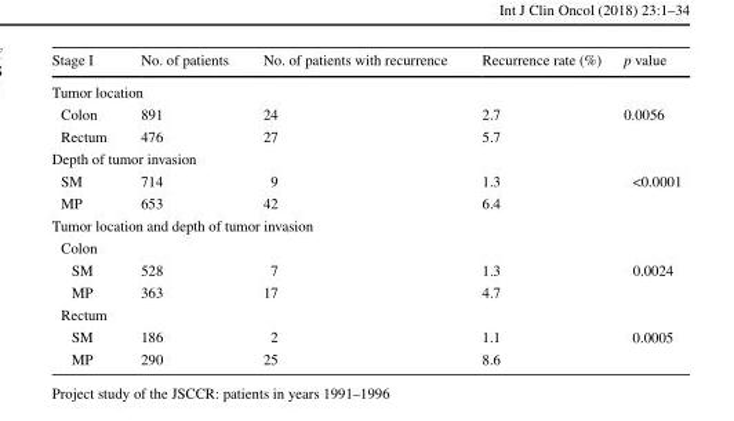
<table><thead><tr><td>Stage I</td><td>No. of patients</td><td>No. of patients with recurrence</td><td>Recurrence rate (%)</td><td>p value</td></tr></thead><tbody><tr><td colspan="5">Tumor location</td></tr><tr><td>Colon</td><td>891</td><td>24</td><td>2.7</td><td rowspan="2">0.0056</td></tr><tr><td>Rectum</td><td>476</td><td>27</td><td>5.7</td></tr><tr><td colspan="5">Depth of tumor invasion</td></tr><tr><td>SM</td><td>714</td><td>9</td><td>1.3</td><td rowspan="2">&lt;0.0001</td></tr><tr><td>MP</td><td>653</td><td>42</td><td>6.4</td></tr><tr><td colspan="5">Tumor location and depth of tumor invasion</td></tr><tr><td colspan="5">Colon</td></tr><tr><td>SM</td><td>528</td><td>7</td><td>1.3</td><td rowspan="2">0.0024</td></tr><tr><td>MP</td><td>363</td><td>17</td><td>4.7</td></tr><tr><td colspan="5">Rectum</td></tr><tr><td>SM</td><td>186</td><td>2</td><td>1.1</td><td rowspan="2">0.0005</td></tr><tr><td>MP</td><td>290</td><td>25</td><td>8.6</td></tr></tbody></table>